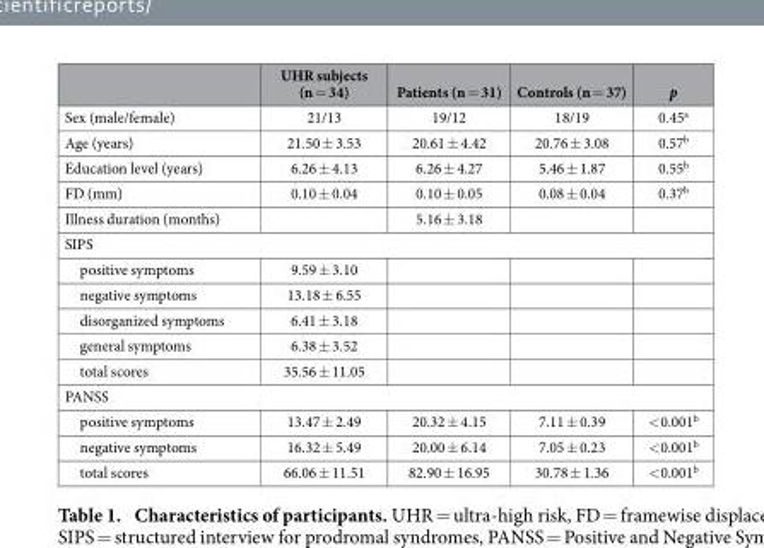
<table><thead><tr><td></td><td>UHR subjects (n = 34)</td><td>Patients (n = 31)</td><td>Controls (n = 37)</td><td>p</td></tr></thead><tbody><tr><td>Sex (male/female)</td><td>21/13</td><td>19/12</td><td>18/19</td><td>0.45<sup>a</sup></td></tr><tr><td>Age (years)</td><td>21.50 ± 3.53</td><td>20.61 ± 4.42</td><td>20.76 ± 3.08</td><td>0.57<sup>b</sup></td></tr><tr><td>Education level (years)</td><td>6.26 ± 4.13</td><td>6.26 ± 4.27</td><td>5.46 ± 1.87</td><td>0.55<sup>b</sup></td></tr><tr><td>FD (mm)</td><td>0.10 ± 0.04</td><td>0.10 ± 0.05</td><td>0.08 ± 0.04</td><td>0.37<sup>b</sup></td></tr><tr><td>Illness duration (months)</td><td></td><td>5.16 ± 3.18</td><td></td><td></td></tr><tr><td colspan="5">SIPS</td></tr><tr><td>positive symptoms</td><td>9.59 ± 3.10</td><td></td><td></td><td></td></tr><tr><td>negative symptoms</td><td>13.18 ± 6.55</td><td></td><td></td><td></td></tr><tr><td>disorganized symptoms</td><td>6.41 ± 3.18</td><td></td><td></td><td></td></tr><tr><td>general symptoms</td><td>6.38 ± 3.52</td><td></td><td></td><td></td></tr><tr><td>total scores</td><td>35.56 ± 11.05</td><td></td><td></td><td></td></tr><tr><td colspan="5">PANSS</td></tr><tr><td>positive symptoms</td><td>13.47 ± 2.49</td><td>20.32 ± 4.15</td><td>7.11 ± 0.39</td><td>&lt; 0.001<sup>b</sup></td></tr><tr><td>negative symptoms</td><td>16.32 ± 5.49</td><td>20.00 ± 6.14</td><td>7.05 ± 0.23</td><td>&lt; 0.001<sup>b</sup></td></tr><tr><td>total scores</td><td>66.06 ± 11.51</td><td>82.90 ± 16.95</td><td>30.78 ± 1.36</td><td>&lt; 0.001<sup>b</sup></td></tr></tbody></table>